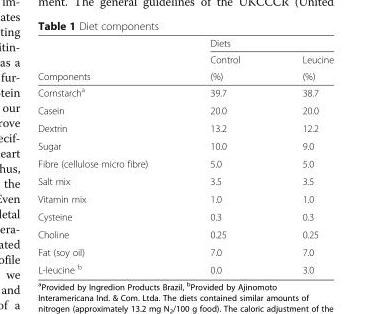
<table><thead><tr><td rowspan="3">Components</td><td colspan="2">Diets</td></tr><tr><td rowspan="2">Control (%)</td><td rowspan="2">Leucine (%)</td></tr><tr></tr></thead><tbody><tr><td>Cornstarch<sup>a</sup></td><td>39.7</td><td>38.7</td></tr><tr><td>Casein</td><td>20.0</td><td>20.0</td></tr><tr><td>Dextrin</td><td>13.2</td><td>12.2</td></tr><tr><td>Sugar</td><td>10.0</td><td>9.0</td></tr><tr><td>Fibre (cellulose micro fibre)</td><td>5.0</td><td>5.0</td></tr><tr><td>Salt mix</td><td>3.5</td><td>3.5</td></tr><tr><td>Vitamin mix</td><td>1.0</td><td>1.0</td></tr><tr><td>Cysteine</td><td>0.3</td><td>0.3</td></tr><tr><td>Choline</td><td>0.25</td><td>0.25</td></tr><tr><td>Fat (soy oil)</td><td>7.0</td><td>7.0</td></tr><tr><td>L-leucine <sup>b</sup></td><td>0.0</td><td>3.0</td></tr></tbody></table>